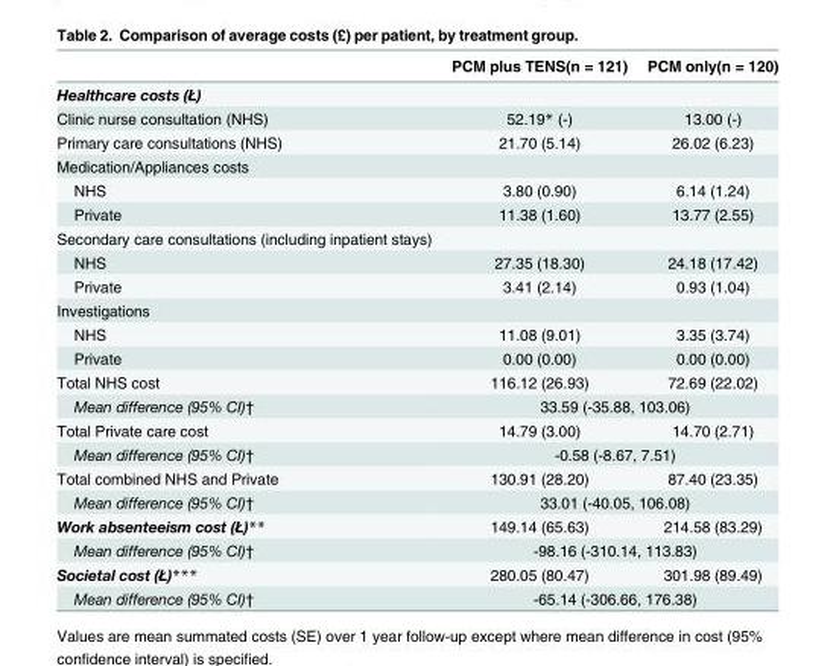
<table><thead><tr><td></td><td>PCM plus TENS(n = 121)</td><td>PCM only(n = 120)</td></tr></thead><tbody><tr><td colspan="3">Healthcare costs (£)</td></tr><tr><td>Clinic nurse consultation (NHS)</td><td>52.19* (-)</td><td>13.00 (-)</td></tr><tr><td>Primary care consultations (NHS)</td><td>21.70 (5.14)</td><td>26.02 (6.23)</td></tr><tr><td colspan="3">Medication/Appliances costs</td></tr><tr><td>NHS</td><td>3.80 (0.90)</td><td>6.14 (1.24)</td></tr><tr><td>Private</td><td>11.38 (1.60)</td><td>13.77 (2.55)</td></tr><tr><td colspan="3">Secondary care consultations (including inpatient stays)</td></tr><tr><td>NHS</td><td>27.35 (18.30)</td><td>24.18 (17.42)</td></tr><tr><td>Private</td><td>3.41 (2.14)</td><td>0.93 (1.04)</td></tr><tr><td colspan="3">Investigations</td></tr><tr><td>NHS</td><td>11.08 (9.01)</td><td>3.35 (3.74)</td></tr><tr><td>Private</td><td>0.00 (0.00)</td><td>0.00 (0.00)</td></tr><tr><td>Total NHS cost</td><td>116.12 (26.93)</td><td>72.69 (22.02)</td></tr><tr><td>Mean difference (95% CI)†</td><td colspan="2">33.59 (-35.88, 103.06)</td></tr><tr><td>Total Private care cost</td><td>14.79 (3.00)</td><td>14.70 (2.71)</td></tr><tr><td>Mean difference (95% CI)†</td><td colspan="2">-0.58 (-8.67, 7.51)</td></tr><tr><td>Total combined NHS and Private</td><td>130.91 (28.20)</td><td>87.40 (23.35)</td></tr><tr><td>Mean difference (95% CI)†</td><td colspan="2">33.01 (-40.05, 106.08)</td></tr><tr><td>Work absenteeism cost (£)**</td><td>149.14 (65.63)</td><td>214.58 (83.29)</td></tr><tr><td>Mean difference (95% CI)†</td><td colspan="2">-98.16 (-310.14, 113.83)</td></tr><tr><td>Societal cost (£)***</td><td>280.05 (80.47)</td><td>301.98 (89.49)</td></tr><tr><td>Mean difference (95% CI)†</td><td colspan="2">-65.14 (-306.66, 176.38)</td></tr></tbody></table>